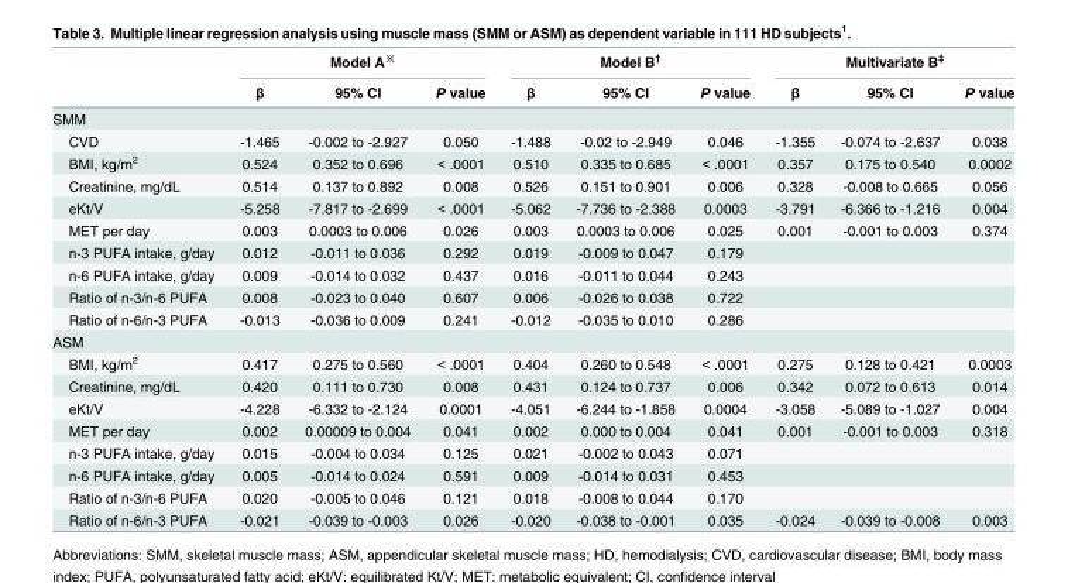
<table><thead><tr><td rowspan="2"></td><td colspan="3">Model A<sup>※</sup></td><td colspan="3">Model B<sup>†</sup></td><td colspan="3">Multivariate B<sup>‡</sup></td></tr><tr><td>β</td><td>95% CI</td><td>P value</td><td>β</td><td>95% CI</td><td>P value</td><td>β</td><td>95% CI</td><td>P value</td></tr></thead><tbody><tr><td colspan="10">SMM</td></tr><tr><td>CVD</td><td>-1.465</td><td>-0.002 to -2.927</td><td>0.050</td><td>-1.488</td><td>-0.02 to -2.949</td><td>0.046</td><td>-1.355</td><td>-0.074 to -2.637</td><td>0.038</td></tr><tr><td>BMI, kg/m<sup>2</sup></td><td>0.524</td><td>0.352 to 0.696</td><td>&lt; .0001</td><td>0.510</td><td>0.335 to 0.685</td><td>&lt; .0001</td><td>0.357</td><td>0.175 to 0.540</td><td>0.0002</td></tr><tr><td>Creatinine, mg/dL</td><td>0.514</td><td>0.137 to 0.892</td><td>0.008</td><td>0.526</td><td>0.151 to 0.901</td><td>0.006</td><td>0.328</td><td>-0.008 to 0.665</td><td>0.056</td></tr><tr><td>eKt/V</td><td>-5.258</td><td>-7.817 to -2.699</td><td>&lt; .0001</td><td>-5.062</td><td>-7.736 to -2.388</td><td>0.0003</td><td>-3.791</td><td>-6.366 to -1.216</td><td>0.004</td></tr><tr><td>MET per day</td><td>0.003</td><td>0.0003 to 0.006</td><td>0.026</td><td>0.003</td><td>0.0003 to 0.006</td><td>0.025</td><td>0.001</td><td>-0.001 to 0.003</td><td>0.374</td></tr><tr><td>n-3 PUFA intake, g/day</td><td>0.012</td><td>-0.011 to 0.036</td><td>0.292</td><td>0.019</td><td>-0.009 to 0.047</td><td>0.179</td><td></td><td></td><td></td></tr><tr><td>n-6 PUFA intake, g/day</td><td>0.009</td><td>-0.014 to 0.032</td><td>0.437</td><td>0.016</td><td>-0.011 to 0.044</td><td>0.243</td><td></td><td></td><td></td></tr><tr><td>Ratio of n-3/n-6 PUFA</td><td>0.008</td><td>-0.023 to 0.040</td><td>0.607</td><td>0.006</td><td>-0.026 to 0.038</td><td>0.722</td><td></td><td></td><td></td></tr><tr><td>Ratio of n-6/n-3 PUFA</td><td>-0.013</td><td>-0.036 to 0.009</td><td>0.241</td><td>-0.012</td><td>-0.035 to 0.010</td><td>0.286</td><td></td><td></td><td></td></tr><tr><td colspan="10">ASM</td></tr><tr><td>BMI, kg/m<sup>2</sup></td><td>0.417</td><td>0.275 to 0.560</td><td>&lt; .0001</td><td>0.404</td><td>0.260 to 0.548</td><td>&lt; .0001</td><td>0.275</td><td>0.128 to 0.421</td><td>0.0003</td></tr><tr><td>Creatinine, mg/dL</td><td>0.420</td><td>0.111 to 0.730</td><td>0.008</td><td>0.431</td><td>0.124 to 0.737</td><td>0.006</td><td>0.342</td><td>0.072 to 0.613</td><td>0.014</td></tr><tr><td>eKt/V</td><td>-4.228</td><td>-6.332 to -2.124</td><td>0.0001</td><td>-4.051</td><td>-6.244 to -1.858</td><td>0.0004</td><td>-3.058</td><td>-5.089 to -1.027</td><td>0.004</td></tr><tr><td>MET per day</td><td>0.002</td><td>0.00009 to 0.004</td><td>0.041</td><td>0.002</td><td>0.000 to 0.004</td><td>0.041</td><td>0.001</td><td>-0.001 to 0.003</td><td>0.318</td></tr><tr><td>n-3 PUFA intake, g/day</td><td>0.015</td><td>-0.004 to 0.034</td><td>0.125</td><td>0.021</td><td>-0.002 to 0.043</td><td>0.071</td><td></td><td></td><td></td></tr><tr><td>n-6 PUFA intake, g/day</td><td>0.005</td><td>-0.014 to 0.024</td><td>0.591</td><td>0.009</td><td>-0.014 to 0.031</td><td>0.453</td><td></td><td></td><td></td></tr><tr><td>Ratio of n-3/n-6 PUFA</td><td>0.020</td><td>-0.005 to 0.046</td><td>0.121</td><td>0.018</td><td>-0.008 to 0.044</td><td>0.170</td><td></td><td></td><td></td></tr><tr><td>Ratio of n-6/n-3 PUFA</td><td>-0.021</td><td>-0.039 to -0.003</td><td>0.026</td><td>-0.020</td><td>-0.038 to -0.001</td><td>0.035</td><td>-0.024</td><td>-0.039 to -0.008</td><td>0.003</td></tr></tbody></table>